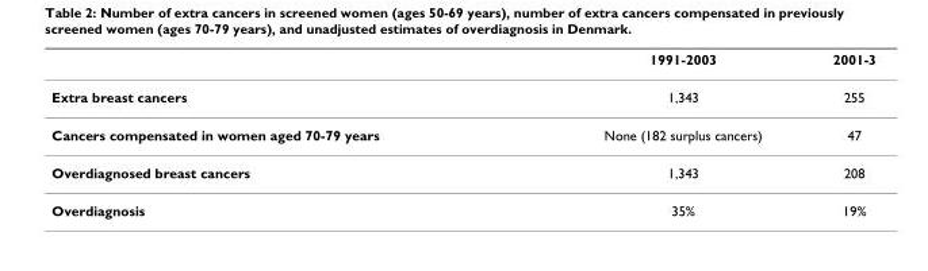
<table><thead><tr><td></td><td>1991-2003</td><td>2001-3</td></tr></thead><tbody><tr><td>Extra breast cancers</td><td>1,343</td><td>255</td></tr><tr><td>Cancers compensated in women aged 70-79 years</td><td>None (182 surplus cancers)</td><td>47</td></tr><tr><td>Overdiagnosed breast cancers</td><td>1,343</td><td>208</td></tr><tr><td>Overdiagnosis</td><td>35%</td><td>19%</td></tr></tbody></table>